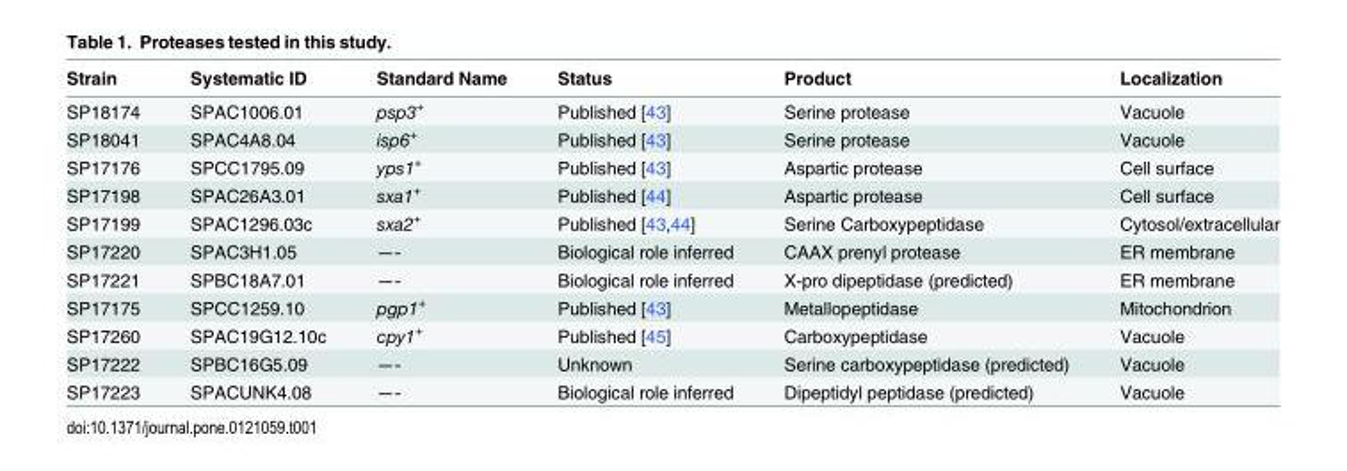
<table><thead><tr><td>Strain</td><td>Systematic ID</td><td>Standard Name</td><td>Status</td><td>Product</td><td>Localization</td></tr></thead><tbody><tr><td>SP18174</td><td>SPAC1006.01</td><td>psp3<sup>+</sup></td><td>Published [43]</td><td>Serine protease</td><td>Vacuole</td></tr><tr><td>SP18041</td><td>SPAC4A8.04</td><td>isp6<sup>+</sup></td><td>Published [43]</td><td>Serine protease</td><td>Vacuole</td></tr><tr><td>SP17176</td><td>SPCC1795.09</td><td>yps1<sup>+</sup></td><td>Published [43]</td><td>Aspartic protease</td><td>Cell surface</td></tr><tr><td>SP17198</td><td>SPAC26A3.01</td><td>sxa1<sup>+</sup></td><td>Published [44]</td><td>Aspartic protease</td><td>Cell surface</td></tr><tr><td>SP17199</td><td>SPAC1296.03c</td><td>sxa2<sup>+</sup></td><td>Published [43,44]</td><td>Serine Carboxypeptidase</td><td>Cytosol/extracellular</td></tr><tr><td>SP17220</td><td>SPAC3H1.05</td><td>—-</td><td>Biological role inferred</td><td>CAAX prenyl protease</td><td>ER membrane</td></tr><tr><td>SP17221</td><td>SPBC18A7.01</td><td>—-</td><td>Biological role inferred</td><td>X-pro dipeptidase (predicted)</td><td>ER membrane</td></tr><tr><td>SP17175</td><td>SPCC1259.10</td><td>pgp1<sup>+</sup></td><td>Published [43]</td><td>Metallopeptidase</td><td>Mitochondrion</td></tr><tr><td>SP17260</td><td>SPAC19G12.10c</td><td>cpy1<sup>+</sup></td><td>Published [45]</td><td>Carboxypeptidase</td><td>Vacuole</td></tr><tr><td>SP17222</td><td>SPBC16G5.09</td><td>—-</td><td>Unknown</td><td>Serine carboxypeptidase (predicted)</td><td>Vacuole</td></tr><tr><td>SP17223</td><td>SPACUNK4.08</td><td>—-</td><td>Biological role inferred</td><td>Dipeptidyl peptidase (predicted)</td><td>Vacuole</td></tr></tbody></table>